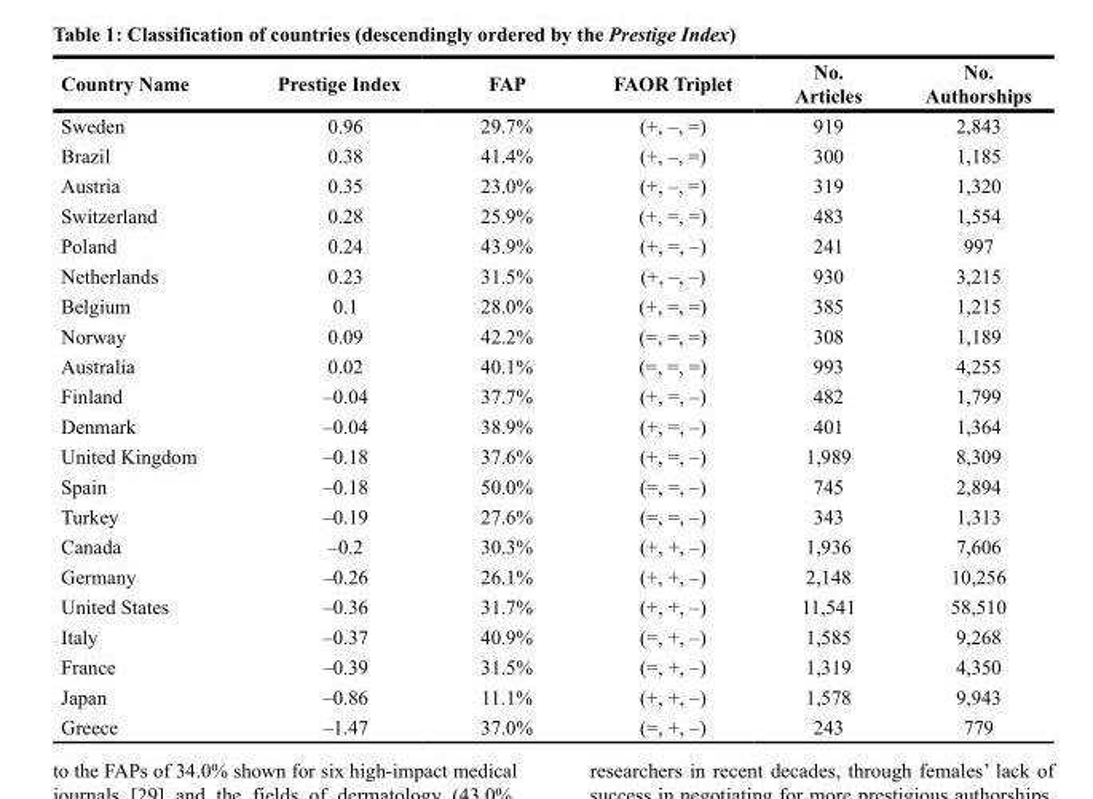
<table><thead><tr><td>Country Name</td><td>Prestige Index</td><td>FAP</td><td>FAOR Triplet</td><td>No. Articles</td><td>No. Authorships</td></tr></thead><tbody><tr><td>Sweden</td><td>0.96</td><td>29.7%</td><td>(+, –, =)</td><td>919</td><td>2,843</td></tr><tr><td>Brazil</td><td>0.38</td><td>41.4%</td><td>(+, –, =)</td><td>300</td><td>1,185</td></tr><tr><td>Austria</td><td>0.35</td><td>23.0%</td><td>(+, –, =)</td><td>319</td><td>1,320</td></tr><tr><td>Switzerland</td><td>0.28</td><td>25.9%</td><td>(+, =, =)</td><td>483</td><td>1,554</td></tr><tr><td>Poland</td><td>0.24</td><td>43.9%</td><td>(+, =, –)</td><td>241</td><td>997</td></tr><tr><td>Netherlands</td><td>0.23</td><td>31.5%</td><td>(+, –, –)</td><td>930</td><td>3,215</td></tr><tr><td>Belgium</td><td>0.1</td><td>28.0%</td><td>(+, =, =)</td><td>385</td><td>1,215</td></tr><tr><td>Norway</td><td>0.09</td><td>42.2%</td><td>(=, =, =)</td><td>308</td><td>1,189</td></tr><tr><td>Australia</td><td>0.02</td><td>40.1%</td><td>(=, =, =)</td><td>993</td><td>4,255</td></tr><tr><td>Finland</td><td>–0.04</td><td>37.7%</td><td>(+, =, –)</td><td>482</td><td>1,799</td></tr><tr><td>Denmark</td><td>–0.04</td><td>38.9%</td><td>(+, =, –)</td><td>401</td><td>1,364</td></tr><tr><td>United Kingdom</td><td>–0.18</td><td>37.6%</td><td>(+, =, –)</td><td>1,989</td><td>8,309</td></tr><tr><td>Spain</td><td>–0.18</td><td>50.0%</td><td>(=, =, –)</td><td>745</td><td>2,894</td></tr><tr><td>Turkey</td><td>–0.19</td><td>27.6%</td><td>(=, =, –)</td><td>343</td><td>1,313</td></tr><tr><td>Canada</td><td>–0.2</td><td>30.3%</td><td>(+, +, –)</td><td>1,936</td><td>7,606</td></tr><tr><td>Germany</td><td>–0.26</td><td>26.1%</td><td>(+, +, –)</td><td>2,148</td><td>10,256</td></tr><tr><td>United States</td><td>–0.36</td><td>31.7%</td><td>(+, +, –)</td><td>11,541</td><td>58,510</td></tr><tr><td>Italy</td><td>–0.37</td><td>40.9%</td><td>(=, +, –)</td><td>1,585</td><td>9,268</td></tr><tr><td>France</td><td>–0.39</td><td>31.5%</td><td>(=, +, –)</td><td>1,319</td><td>4,350</td></tr><tr><td>Japan</td><td>–0.86</td><td>11.1%</td><td>(+, +, –)</td><td>1,578</td><td>9,943</td></tr><tr><td>Greece</td><td>–1.47</td><td>37.0%</td><td>(=, +, –)</td><td>243</td><td>779</td></tr></tbody></table>